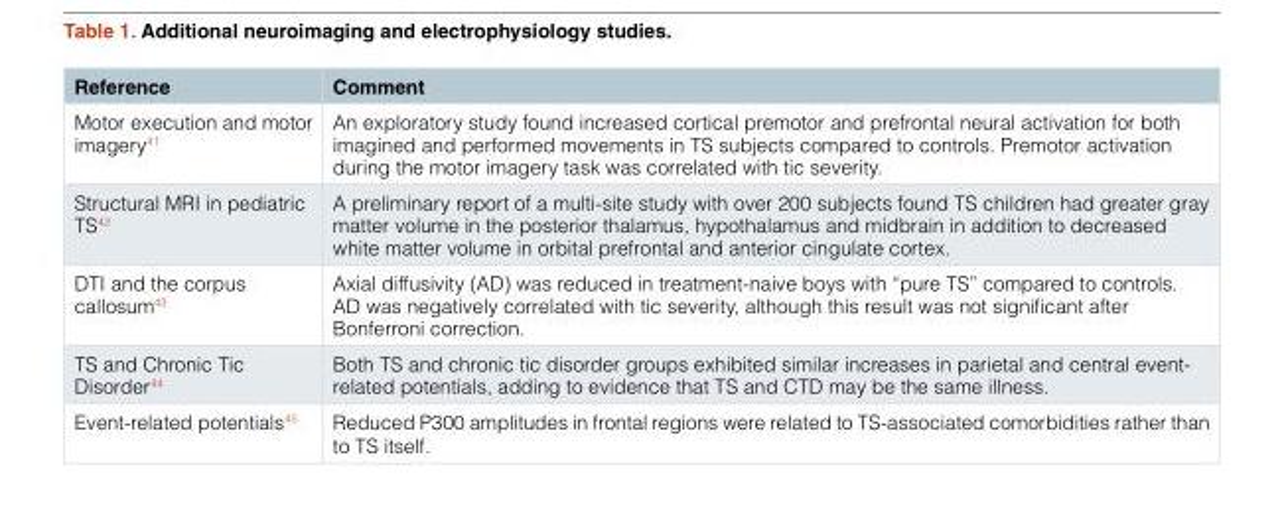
<table><thead><tr><td>Reference</td><td>Comment</td></tr></thead><tbody><tr><td>Motor execution and motor imagery<sup>41</sup></td><td>An exploratory study found increased cortical premotor and prefrontal neural activation for both imagined and performed movements in TS subjects compared to controls. Premotor activation during the motor imagery task was correlated with tic severity.</td></tr><tr><td>Structural MRI in pediatric TS<sup>42</sup></td><td>A preliminary report of a multi-site study with over 200 subjects found TS children had greater gray matter volume in the posterior thalamus, hypothalamus and midbrain in addition to decreased white matter volume in orbital prefrontal and anterior cingulate cortex.</td></tr><tr><td>DTI and the corpus callosum<sup>43</sup></td><td>Axial diffusivity (AD) was reduced in treatment-naive boys with “pure TS” compared to controls. AD was negatively correlated with tic severity, although this result was not significant after Bonferroni correction.</td></tr><tr><td>TS and Chronic Tic Disorder<sup>44</sup></td><td>Both TS and chronic tic disorder groups exhibited similar increases in parietal and central event- related potentials, adding to evidence that TS and CTD may be the same illness.</td></tr><tr><td>Event-related potentials<sup>45</sup></td><td>Reduced P300 amplitudes in frontal regions were related to TS-associated comorbidities rather than to TS itself.</td></tr></tbody></table>